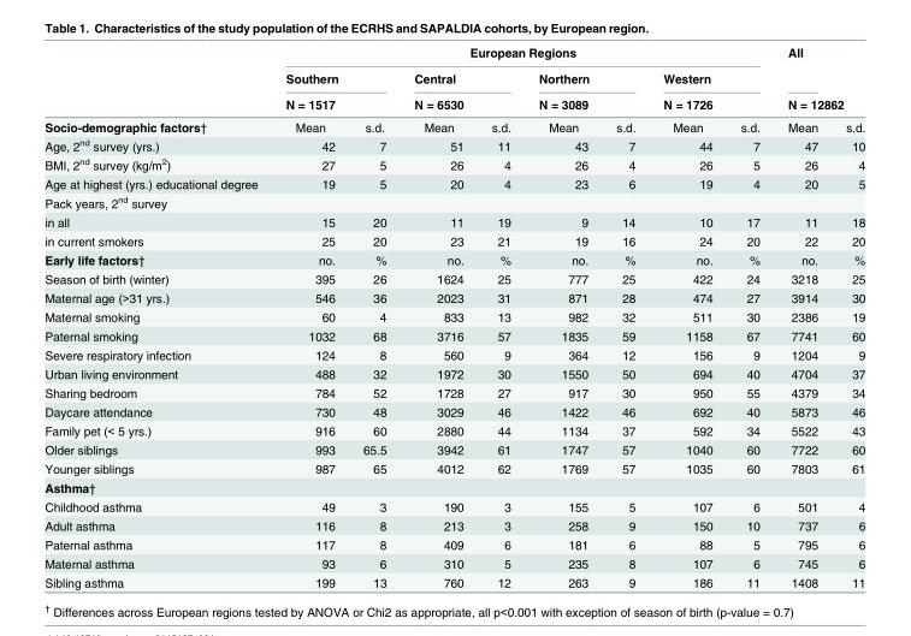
<table><thead><tr><td rowspan="3"></td><td colspan="8">European Regions</td><td rowspan="2">All</td><td rowspan="2"></td></tr><tr><td colspan="2">Southern</td><td colspan="2">Central</td><td colspan="2">Northern</td><td colspan="2">Western</td></tr><tr><td>N = 1517</td><td></td><td>N = 6530</td><td></td><td>N = 3089</td><td></td><td>N = 1726</td><td></td><td colspan="2">N = 12862</td></tr></thead><tbody><tr><td>Socio-demographic factors†</td><td>Mean</td><td>s.d.</td><td>Mean</td><td>s.d.</td><td>Mean</td><td>s.d.</td><td>Mean</td><td>s.d.</td><td>Mean</td><td>s.d.</td></tr><tr><td>Age, 2<sup>nd</sup> survey (yrs.)</td><td>42</td><td>7</td><td>51</td><td>11</td><td>43</td><td>7</td><td>44</td><td>7</td><td>47</td><td>10</td></tr><tr><td>BMI, 2<sup>nd</sup> survey (kg/m<sup>2</sup>)</td><td>27</td><td>5</td><td>26</td><td>4</td><td>26</td><td>4</td><td>26</td><td>5</td><td>26</td><td>4</td></tr><tr><td>Age at highest (yrs.) educational degree</td><td>19</td><td>5</td><td>20</td><td>4</td><td>23</td><td>6</td><td>19</td><td>4</td><td>20</td><td>5</td></tr><tr><td colspan="11">Pack years, 2<sup>nd</sup> survey</td></tr><tr><td>in all</td><td>15</td><td>20</td><td>11</td><td>19</td><td>9</td><td>14</td><td>10</td><td>17</td><td>11</td><td>18</td></tr><tr><td>in current smokers</td><td>25</td><td>20</td><td>23</td><td>21</td><td>19</td><td>16</td><td>24</td><td>20</td><td>22</td><td>20</td></tr><tr><td>Early life factors†</td><td>no.</td><td>%</td><td>no.</td><td>%</td><td>no.</td><td>%</td><td>no.</td><td>%</td><td>no.</td><td>%</td></tr><tr><td>Season of birth (winter)</td><td>395</td><td>26</td><td>1624</td><td>25</td><td>777</td><td>25</td><td>422</td><td>24</td><td>3218</td><td>25</td></tr><tr><td>Maternal age (&gt;31 yrs.)</td><td>546</td><td>36</td><td>2023</td><td>31</td><td>871</td><td>28</td><td>474</td><td>27</td><td>3914</td><td>30</td></tr><tr><td>Maternal smoking</td><td>60</td><td>4</td><td>833</td><td>13</td><td>982</td><td>32</td><td>511</td><td>30</td><td>2386</td><td>19</td></tr><tr><td>Paternal smoking</td><td>1032</td><td>68</td><td>3716</td><td>57</td><td>1835</td><td>59</td><td>1158</td><td>67</td><td>7741</td><td>60</td></tr><tr><td>Severe respiratory infection</td><td>124</td><td>8</td><td>560</td><td>9</td><td>364</td><td>12</td><td>156</td><td>9</td><td>1204</td><td>9</td></tr><tr><td>Urban living environment</td><td>488</td><td>32</td><td>1972</td><td>30</td><td>1550</td><td>50</td><td>694</td><td>40</td><td>4704</td><td>37</td></tr><tr><td>Sharing bedroom</td><td>784</td><td>52</td><td>1728</td><td>27</td><td>917</td><td>30</td><td>950</td><td>55</td><td>4379</td><td>34</td></tr><tr><td>Daycare attendance</td><td>730</td><td>48</td><td>3029</td><td>46</td><td>1422</td><td>46</td><td>692</td><td>40</td><td>5873</td><td>46</td></tr><tr><td>Family pet (&lt; 5 yrs.)</td><td>916</td><td>60</td><td>2880</td><td>44</td><td>1134</td><td>37</td><td>592</td><td>34</td><td>5522</td><td>43</td></tr><tr><td>Older siblings</td><td>993</td><td>65.5</td><td>3942</td><td>61</td><td>1747</td><td>57</td><td>1040</td><td>60</td><td>7722</td><td>60</td></tr><tr><td>Younger siblings</td><td>987</td><td>65</td><td>4012</td><td>62</td><td>1769</td><td>57</td><td>1035</td><td>60</td><td>7803</td><td>61</td></tr><tr><td colspan="11">Asthma†</td></tr><tr><td>Childhood asthma</td><td>49</td><td>3</td><td>190</td><td>3</td><td>155</td><td>5</td><td>107</td><td>6</td><td>501</td><td>4</td></tr><tr><td>Adult asthma</td><td>116</td><td>8</td><td>213</td><td>3</td><td>258</td><td>9</td><td>150</td><td>10</td><td>737</td><td>6</td></tr><tr><td>Paternal asthma</td><td>117</td><td>8</td><td>409</td><td>6</td><td>181</td><td>6</td><td>88</td><td>5</td><td>795</td><td>6</td></tr><tr><td>Maternal asthma</td><td>93</td><td>6</td><td>310</td><td>5</td><td>235</td><td>8</td><td>107</td><td>6</td><td>745</td><td>6</td></tr><tr><td>Sibling asthma</td><td>199</td><td>13</td><td>760</td><td>12</td><td>263</td><td>9</td><td>186</td><td>11</td><td>1408</td><td>11</td></tr></tbody></table>